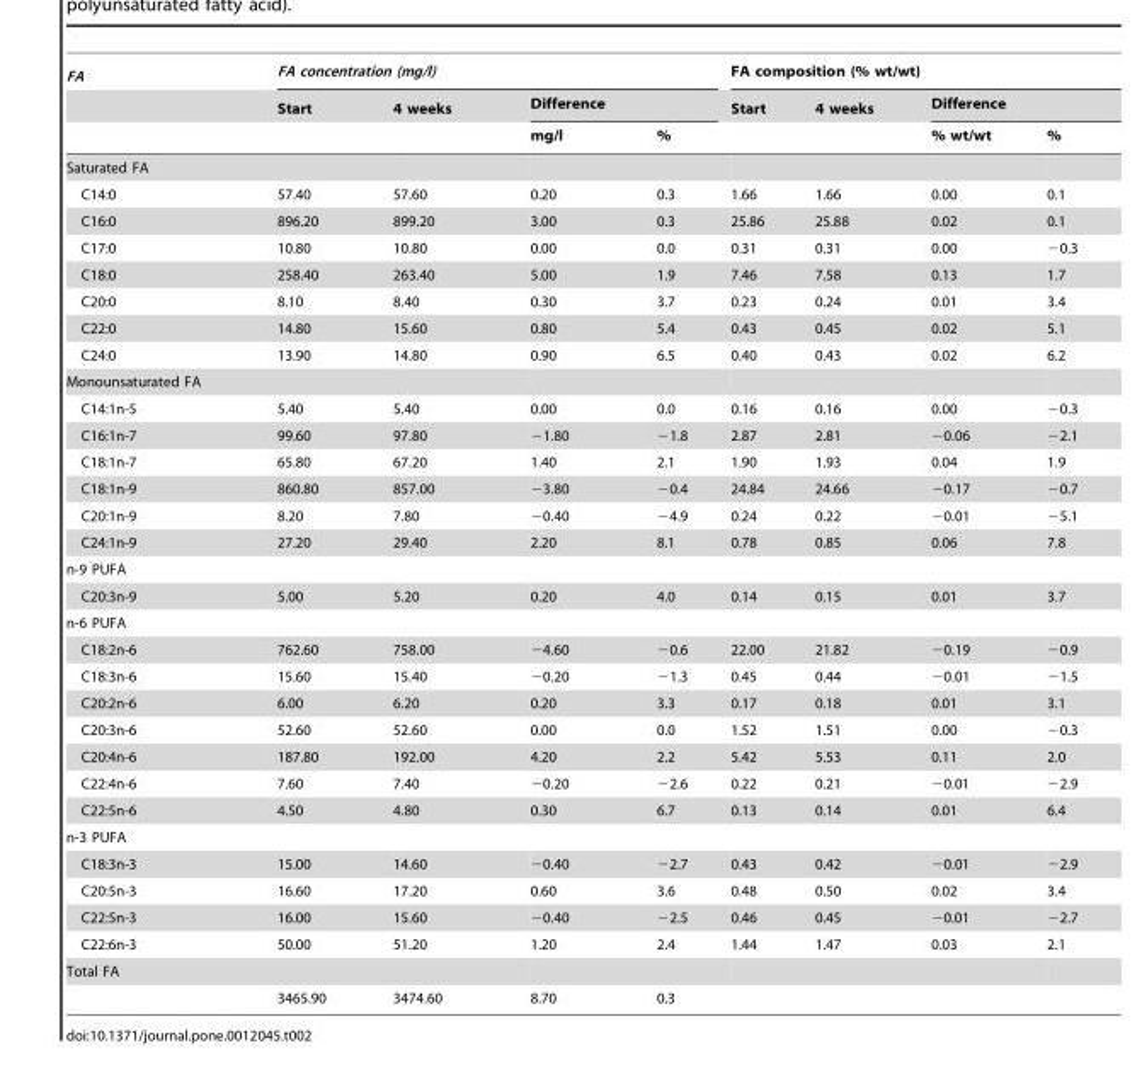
<table><thead><tr><td rowspan="3">FA</td><td colspan="4">FA concentration (mg/l)</td><td colspan="4">FA composition (% wt/wt)</td></tr><tr><td rowspan="2">Start</td><td rowspan="2">4 weeks</td><td colspan="2">Difference</td><td rowspan="2">Start</td><td rowspan="2">4 weeks</td><td colspan="2">Difference</td></tr><tr><td>mg/l</td><td>%</td><td>% wt/wt</td><td>%</td></tr></thead><tbody><tr><td colspan="9">Saturated FA</td></tr><tr><td>C14:0</td><td>57.40</td><td>57.60</td><td>0.20</td><td>0.3</td><td>1.66</td><td>1.66</td><td>0.00</td><td>0.1</td></tr><tr><td>C16:0</td><td>896.20</td><td>899.20</td><td>3.00</td><td>0.3</td><td>25.86</td><td>25.88</td><td>0.02</td><td>0.1</td></tr><tr><td>C17:0</td><td>10.80</td><td>10.80</td><td>0.00</td><td>0.0</td><td>0.31</td><td>0.31</td><td>0.00</td><td>−0.3</td></tr><tr><td>C18:0</td><td>258.40</td><td>263.40</td><td>5.00</td><td>1.9</td><td>7.46</td><td>7.58</td><td>0.13</td><td>1.7</td></tr><tr><td>C20:0</td><td>8.10</td><td>8.40</td><td>0.30</td><td>3.7</td><td>0.23</td><td>0.24</td><td>0.01</td><td>3.4</td></tr><tr><td>C22:0</td><td>14.80</td><td>15.60</td><td>0.80</td><td>5.4</td><td>0.43</td><td>0.45</td><td>0.02</td><td>5.1</td></tr><tr><td>C24:0</td><td>13.90</td><td>14.80</td><td>0.90</td><td>6.5</td><td>0.40</td><td>0.43</td><td>0.02</td><td>6.2</td></tr><tr><td colspan="9">Monounsaturated FA</td></tr><tr><td>C14:1n-5</td><td>5.40</td><td>5.40</td><td>0.00</td><td>0.0</td><td>0.16</td><td>0.16</td><td>0.00</td><td>−0.3</td></tr><tr><td>C16:1n-7</td><td>99.60</td><td>97.80</td><td>−1.80</td><td>−1.8</td><td>2.87</td><td>2.81</td><td>−0.06</td><td>−2.1</td></tr><tr><td>C18:1n-7</td><td>65.80</td><td>67.20</td><td>1.40</td><td>2.1</td><td>1.90</td><td>1.93</td><td>0.04</td><td>1.9</td></tr><tr><td>C18:1n-9</td><td>860.80</td><td>857.00</td><td>−3.80</td><td>−0.4</td><td>24.84</td><td>24.66</td><td>−0.17</td><td>−0.7</td></tr><tr><td>C20:1n-9</td><td>8.20</td><td>7.80</td><td>−0.40</td><td>−4.9</td><td>0.24</td><td>0.22</td><td>−0.01</td><td>−5.1</td></tr><tr><td>C24:1n-9</td><td>27.20</td><td>29.40</td><td>2.20</td><td>8.1</td><td>0.78</td><td>0.85</td><td>0.06</td><td>7.8</td></tr><tr><td colspan="9">n-9 PUFA</td></tr><tr><td>C20:3n-9</td><td>5.00</td><td>5.20</td><td>0.20</td><td>4.0</td><td>0.14</td><td>0.15</td><td>0.01</td><td>3.7</td></tr><tr><td colspan="9">n-6 PUFA</td></tr><tr><td>C18:2n-6</td><td>762.60</td><td>758.00</td><td>−4.60</td><td>−0.6</td><td>22.00</td><td>21.82</td><td>−0.19</td><td>−0.9</td></tr><tr><td>C18:3n-6</td><td>15.60</td><td>15.40</td><td>−0.20</td><td>−1.3</td><td>0.45</td><td>0.44</td><td>−0.01</td><td>−1.5</td></tr><tr><td>C20:2n-6</td><td>6.00</td><td>6.20</td><td>0.20</td><td>3.3</td><td>0.17</td><td>0.18</td><td>0.01</td><td>3.1</td></tr><tr><td>C20:3n-6</td><td>52.60</td><td>52.60</td><td>0.00</td><td>0.0</td><td>1.52</td><td>1.51</td><td>0.00</td><td>−0.3</td></tr><tr><td>C20:4n-6</td><td>187.80</td><td>192.00</td><td>4.20</td><td>2.2</td><td>5.42</td><td>5.53</td><td>0.11</td><td>2.0</td></tr><tr><td>C22:4n-6</td><td>7.60</td><td>7.40</td><td>−0.20</td><td>−2.6</td><td>0.22</td><td>0.21</td><td>−0.01</td><td>−2.9</td></tr><tr><td>C22:5n-6</td><td>4.50</td><td>4.80</td><td>0.30</td><td>6.7</td><td>0.13</td><td>0.14</td><td>0.01</td><td>6.4</td></tr><tr><td colspan="9">n-3 PUFA</td></tr><tr><td>C18:3n-3</td><td>15.00</td><td>14.60</td><td>−0.40</td><td>−2.7</td><td>0.43</td><td>0.42</td><td>−0.01</td><td>−2.9</td></tr><tr><td>C20:5n-3</td><td>16.60</td><td>17.20</td><td>0.60</td><td>3.6</td><td>0.48</td><td>0.50</td><td>0.02</td><td>3.4</td></tr><tr><td>C22:5n-3</td><td>16.00</td><td>15.60</td><td>−0.40</td><td>−2.5</td><td>0.46</td><td>0.45</td><td>−0.01</td><td>−2.7</td></tr><tr><td>C22:6n-3</td><td>50.00</td><td>51.20</td><td>1.20</td><td>2.4</td><td>1.44</td><td>1.47</td><td>0.03</td><td>2.1</td></tr><tr><td colspan="9">Total FA</td></tr><tr><td></td><td>3465.90</td><td>3474.60</td><td>8.70</td><td>0.3</td><td></td><td></td><td></td><td></td></tr></tbody></table>